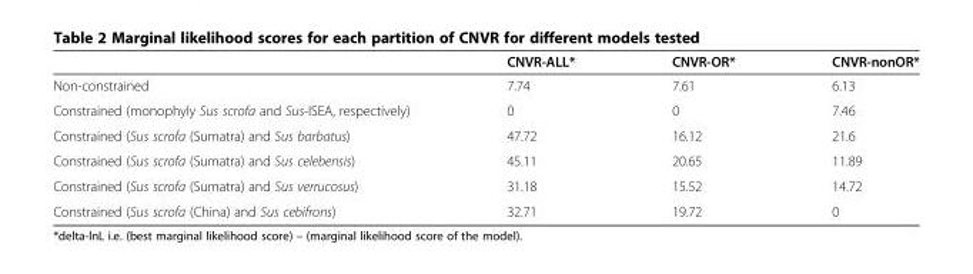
<table><thead><tr><td></td><td>CNVR-ALL*</td><td>CNVR-OR*</td><td>CNVR-nonOR*</td></tr></thead><tbody><tr><td>Non-constrained</td><td>7.74</td><td>7.61</td><td>6.13</td></tr><tr><td>Constrained (monophyly Sus scrofa and Sus-ISEA, respectively)</td><td>0</td><td>0</td><td>7.46</td></tr><tr><td>Constrained (Sus scrofa (Sumatra) and Sus barbatus)</td><td>47.72</td><td>16.12</td><td>21.6</td></tr><tr><td>Constrained (Sus scrofa (Sumatra) and Sus celebensis)</td><td>45.11</td><td>20.65</td><td>11.89</td></tr><tr><td>Constrained (Sus scrofa (Sumatra) and Sus verrucosus)</td><td>31.18</td><td>15.52</td><td>14.72</td></tr><tr><td>Constrained (Sus scrofa (China) and Sus cebifrons)</td><td>32.71</td><td>19.72</td><td>0</td></tr></tbody></table>